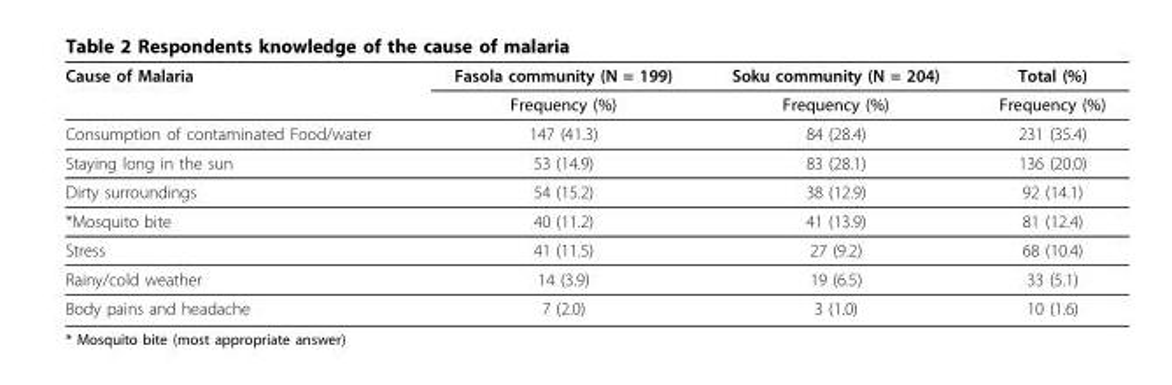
<table><thead><tr><td rowspan="2">Cause of Malaria</td><td rowspan="2">Fasola community (N = 199) Frequency (%)</td><td rowspan="2">Soku community (N = 204) Frequency (%)</td><td rowspan="2">Total (%) Frequency (%)</td></tr><tr></tr></thead><tbody><tr><td>Consumption of contaminated Food/water</td><td>147 (41.3)</td><td>84 (28.4)</td><td>231 (35.4)</td></tr><tr><td>Staying long in the sun</td><td>53 (14.9)</td><td>83 (28.1)</td><td>136 (20.0)</td></tr><tr><td>Dirty surroundings</td><td>54 (15.2)</td><td>38 (12.9)</td><td>92 (14.1)</td></tr><tr><td>*Mosquito bite</td><td>40 (11.2)</td><td>41 (13.9)</td><td>81 (12.4)</td></tr><tr><td>Stress</td><td>41 (11.5)</td><td>27 (9.2)</td><td>68 (10.4)</td></tr><tr><td>Rainy/cold weather</td><td>14 (3.9)</td><td>19 (6.5)</td><td>33 (5.1)</td></tr><tr><td>Body pains and headache</td><td>7 (2.0)</td><td>3 (1.0)</td><td>10 (1.6)</td></tr></tbody></table>